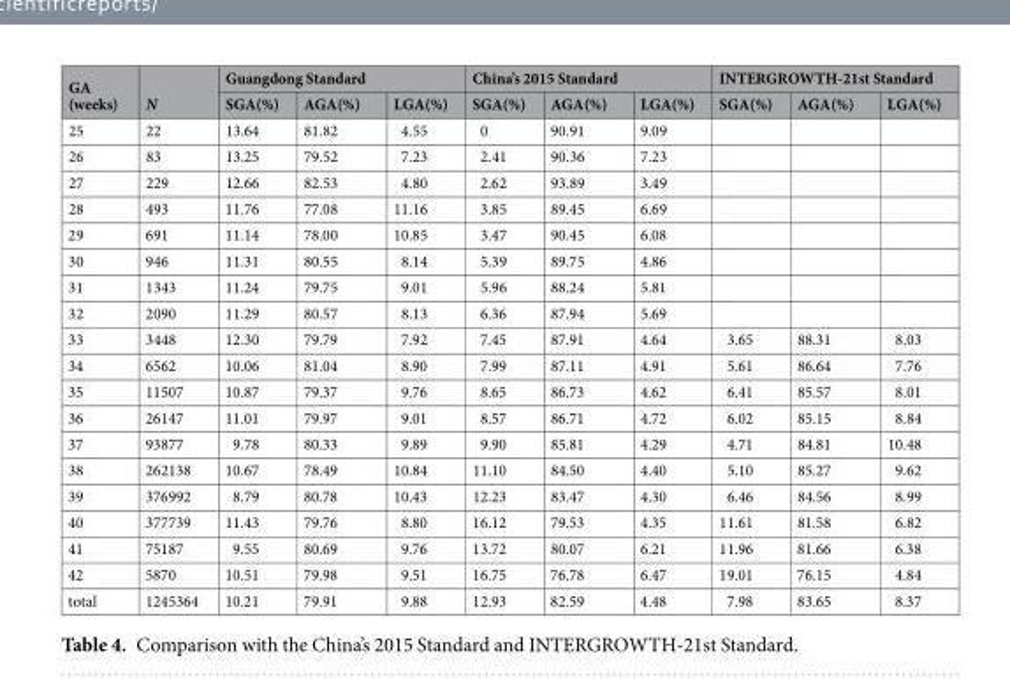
<table><thead><tr><td rowspan="2">GA (weeks)</td><td rowspan="2">N</td><td colspan="3">Guangdong Standard</td><td colspan="3">China’s 2015 Standard</td><td colspan="3">INTERGROWTH-21st Standard</td></tr><tr><td>SGA(%)</td><td>AGA(%)</td><td>LGA(%)</td><td>SGA(%)</td><td>AGA(%)</td><td>LGA(%)</td><td>SGA(%)</td><td>AGA(%)</td><td>LGA(%)</td></tr></thead><tbody><tr><td>25</td><td>22</td><td>13.64</td><td>81.82</td><td>4.55</td><td>0</td><td>90.91</td><td>9.09</td><td></td><td></td><td></td></tr><tr><td>26</td><td>83</td><td>13.25</td><td>79.52</td><td>7.23</td><td>2.41</td><td>90.36</td><td>7.23</td><td></td><td></td><td></td></tr><tr><td>27</td><td>229</td><td>12.66</td><td>82.53</td><td>4.80</td><td>2.62</td><td>93.89</td><td>3.49</td><td></td><td></td><td></td></tr><tr><td>28</td><td>493</td><td>11.76</td><td>77.08</td><td>11.16</td><td>3.85</td><td>89.45</td><td>6.69</td><td></td><td></td><td></td></tr><tr><td>29</td><td>691</td><td>11.14</td><td>78.00</td><td>10.85</td><td>3.47</td><td>90.45</td><td>6.08</td><td></td><td></td><td></td></tr><tr><td>30</td><td>946</td><td>11.31</td><td>80.55</td><td>8.14</td><td>5.39</td><td>89.75</td><td>4.86</td><td></td><td></td><td></td></tr><tr><td>31</td><td>1343</td><td>11.24</td><td>79.75</td><td>9.01</td><td>5.96</td><td>88.24</td><td>5.81</td><td></td><td></td><td></td></tr><tr><td>32</td><td>2090</td><td>11.29</td><td>80.57</td><td>8.13</td><td>6.36</td><td>87.94</td><td>5.69</td><td></td><td></td><td></td></tr><tr><td>33</td><td>3448</td><td>12.30</td><td>79.79</td><td>7.92</td><td>7.45</td><td>87.91</td><td>4.64</td><td>3.65</td><td>88.31</td><td>8.03</td></tr><tr><td>34</td><td>6562</td><td>10.06</td><td>81.04</td><td>8.90</td><td>7.99</td><td>87.11</td><td>4.91</td><td>5.61</td><td>86.64</td><td>7.76</td></tr><tr><td>35</td><td>11507</td><td>10.87</td><td>79.37</td><td>9.76</td><td>8.65</td><td>86.73</td><td>4.62</td><td>6.41</td><td>85.57</td><td>8.01</td></tr><tr><td>36</td><td>26147</td><td>11.01</td><td>79.97</td><td>9.01</td><td>8.57</td><td>86.71</td><td>4.72</td><td>6.02</td><td>85.15</td><td>8.84</td></tr><tr><td>37</td><td>93877</td><td>9.78</td><td>80.33</td><td>9.89</td><td>9.90</td><td>85.81</td><td>4.29</td><td>4.71</td><td>84.81</td><td>10.48</td></tr><tr><td>38</td><td>262138</td><td>10.67</td><td>78.49</td><td>10.84</td><td>11.10</td><td>84.50</td><td>4.40</td><td>5.10</td><td>85.27</td><td>9.62</td></tr><tr><td>39</td><td>376992</td><td>8.79</td><td>80.78</td><td>10.43</td><td>12.23</td><td>83.47</td><td>4.30</td><td>6.46</td><td>84.56</td><td>8.99</td></tr><tr><td>40</td><td>377739</td><td>11.43</td><td>79.76</td><td>8.80</td><td>16.12</td><td>79.53</td><td>4.35</td><td>11.61</td><td>81.58</td><td>6.82</td></tr><tr><td>41</td><td>75187</td><td>9.55</td><td>80.69</td><td>9.76</td><td>13.72</td><td>80.07</td><td>6.21</td><td>11.96</td><td>81.66</td><td>6.38</td></tr><tr><td>42</td><td>5870</td><td>10.51</td><td>79.98</td><td>9.51</td><td>16.75</td><td>76.78</td><td>6.47</td><td>19.01</td><td>76.15</td><td>4.84</td></tr><tr><td>total</td><td>1245364</td><td>10.21</td><td>79.91</td><td>9.88</td><td>12.93</td><td>82.59</td><td>4.48</td><td>7.98</td><td>83.65</td><td>8.37</td></tr></tbody></table>